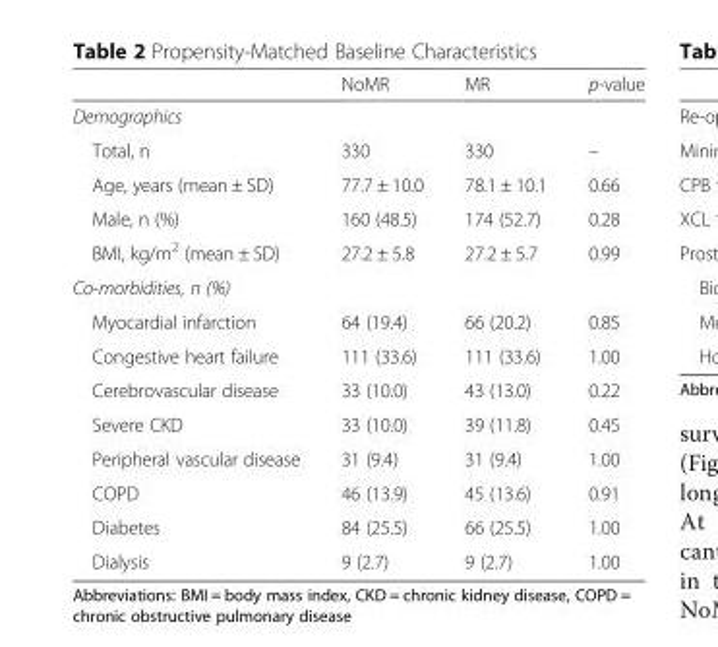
<table><thead><tr><td></td><td>NoMR</td><td>MR</td><td>p-value</td></tr></thead><tbody><tr><td colspan="4">Demographics</td></tr><tr><td>Total, n</td><td>330</td><td>330</td><td>–</td></tr><tr><td>Age, years (mean ± SD)</td><td>77.7 ± 10.0</td><td>78.1 ± 10.1</td><td>0.66</td></tr><tr><td>Male, n (%)</td><td>160 (48.5)</td><td>174 (52.7)</td><td>0.28</td></tr><tr><td>BMI, kg/m<sup>2</sup> (mean ± SD)</td><td>27.2 ± 5.8</td><td>27.2 ± 5.7</td><td>0.99</td></tr><tr><td colspan="4">Co-morbidities, n (%)</td></tr><tr><td>Myocardial infarction</td><td>64 (19.4)</td><td>66 (20.2)</td><td>0.85</td></tr><tr><td>Congestive heart failure</td><td>111 (33.6)</td><td>111 (33.6)</td><td>1.00</td></tr><tr><td>Cerebrovascular disease</td><td>33 (10.0)</td><td>43 (13.0)</td><td>0.22</td></tr><tr><td>Severe CKD</td><td>33 (10.0)</td><td>39 (11.8)</td><td>0.45</td></tr><tr><td>Peripheral vascular disease</td><td>31 (9.4)</td><td>31 (9.4)</td><td>1.00</td></tr><tr><td>COPD</td><td>46 (13.9)</td><td>45 (13.6)</td><td>0.91</td></tr><tr><td>Diabetes</td><td>84 (25.5)</td><td>66 (25.5)</td><td>1.00</td></tr><tr><td>Dialysis</td><td>9 (2.7)</td><td>9 (2.7)</td><td>1.00</td></tr></tbody></table>